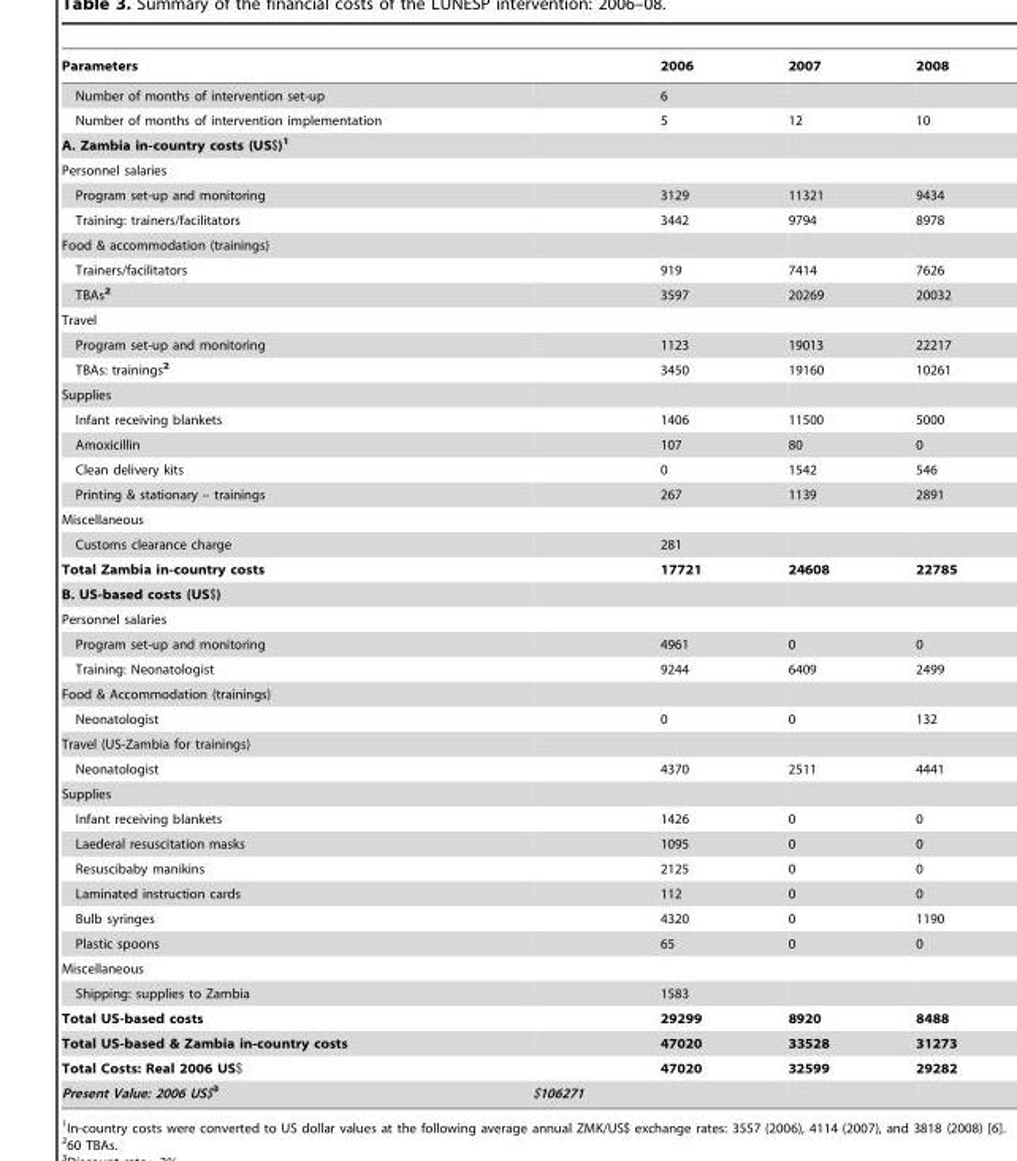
<table><thead><tr><td>Parameters</td><td></td><td>2006</td><td>2007</td><td>2008</td></tr></thead><tbody><tr><td>Number of months of intervention set-up</td><td></td><td>6</td><td></td><td></td></tr><tr><td>Number of months of intervention implementation</td><td></td><td>5</td><td>12</td><td>10</td></tr><tr><td colspan="5">A. Zambia in-country costs (US$)1</td></tr><tr><td colspan="5">Personnel salaries</td></tr><tr><td>Program set-up and monitoring</td><td></td><td>3129</td><td>11321</td><td>9434</td></tr><tr><td>Training: trainers/facilitators</td><td></td><td>3442</td><td>9794</td><td>8978</td></tr><tr><td colspan="5">Food &amp; accommodation (trainings)</td></tr><tr><td>Trainers/facilitators</td><td></td><td>919</td><td>7414</td><td>7626</td></tr><tr><td>TBAs<sup>2</sup></td><td></td><td>3597</td><td>20269</td><td>20032</td></tr><tr><td colspan="5">Travel</td></tr><tr><td>Program set-up and monitoring</td><td></td><td>1123</td><td>19013</td><td>22217</td></tr><tr><td>TBAs: trainings<sup>2</sup></td><td></td><td>3450</td><td>19160</td><td>10261</td></tr><tr><td colspan="5">Supplies</td></tr><tr><td>Infant receiving blankets</td><td></td><td>1406</td><td>11500</td><td>5000</td></tr><tr><td>Amoxicillin</td><td></td><td>107</td><td>80</td><td>0</td></tr><tr><td>Clean delivery kits</td><td></td><td>0</td><td>1542</td><td>546</td></tr><tr><td>Printing &amp; stationary – trainings</td><td></td><td>267</td><td>1139</td><td>2891</td></tr><tr><td colspan="5">Miscellaneous</td></tr><tr><td>Customs clearance charge</td><td></td><td>281</td><td></td><td></td></tr><tr><td>Total Zambia in-country costs</td><td></td><td>17721</td><td>24608</td><td>22785</td></tr><tr><td colspan="5">B. US-based costs (US$)</td></tr><tr><td colspan="5">Personnel salaries</td></tr><tr><td>Program set-up and monitoring</td><td></td><td>4961</td><td>0</td><td>0</td></tr><tr><td>Training: Neonatologist</td><td></td><td>9244</td><td>6409</td><td>2499</td></tr><tr><td colspan="5">Food &amp; Accommodation (trainings)</td></tr><tr><td>Neonatologist</td><td></td><td>0</td><td>0</td><td>132</td></tr><tr><td colspan="5">Travel (US-Zambia for trainings)</td></tr><tr><td>Neonatologist</td><td></td><td>4370</td><td>2511</td><td>4441</td></tr><tr><td colspan="5">Supplies</td></tr><tr><td>Infant receiving blankets</td><td></td><td>1426</td><td>0</td><td>0</td></tr><tr><td>Laederal resuscitation masks</td><td></td><td>1095</td><td>0</td><td>0</td></tr><tr><td>Resuscibaby manikins</td><td></td><td>2125</td><td>0</td><td>0</td></tr><tr><td>Laminated instruction cards</td><td></td><td>112</td><td>0</td><td>0</td></tr><tr><td>Bulb syringes</td><td></td><td>4320</td><td>0</td><td>1190</td></tr><tr><td>Plastic spoons</td><td></td><td>65</td><td>0</td><td>0</td></tr><tr><td colspan="5">Miscellaneous</td></tr><tr><td>Shipping: supplies to Zambia</td><td></td><td>1583</td><td></td><td></td></tr><tr><td>Total US-based costs</td><td></td><td>29299</td><td>8920</td><td>8488</td></tr><tr><td>Total US-based &amp; Zambia in-country costs</td><td></td><td>47020</td><td>33528</td><td>31273</td></tr><tr><td>Total Costs: Real 2006 US$</td><td></td><td>47020</td><td>32599</td><td>29282</td></tr><tr><td>Present Value: 2006 US$3</td><td>$106271</td><td></td><td></td><td></td></tr></tbody></table>